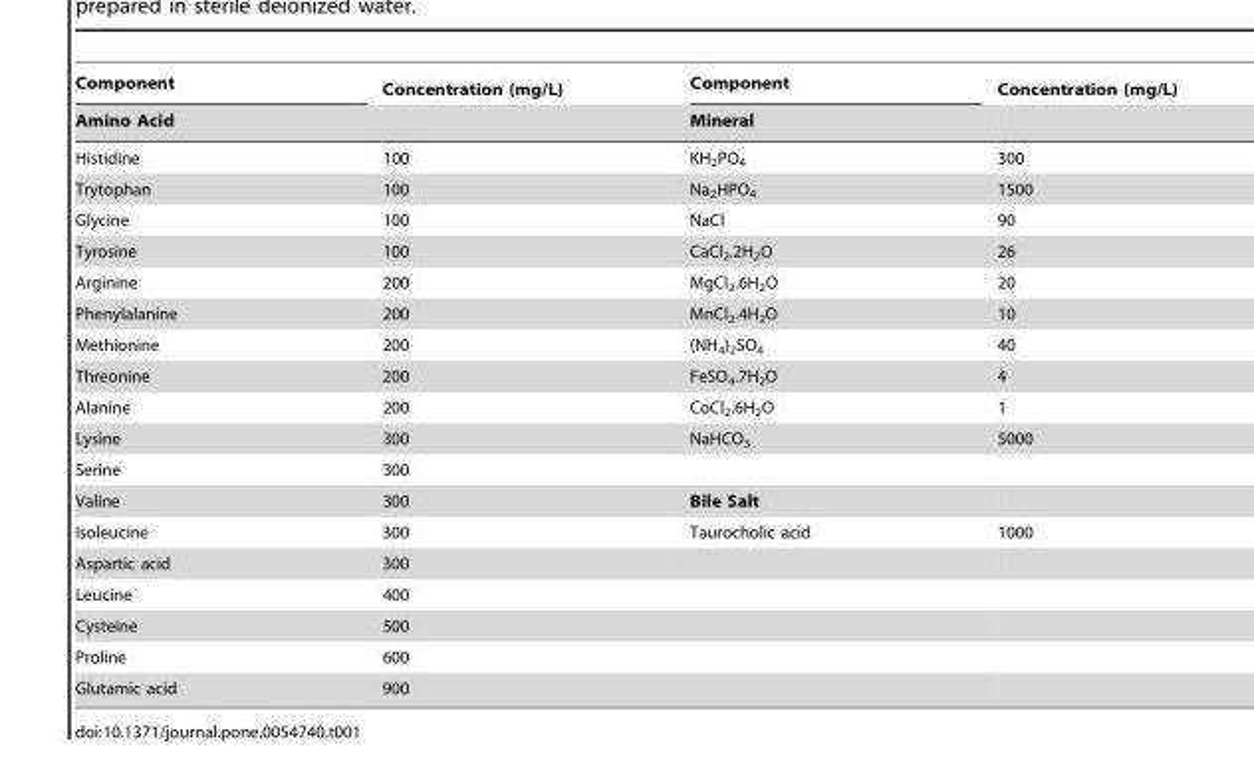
<table><thead><tr><td rowspan="2">Component Amino Acid</td><td rowspan="2">Concentration (mg/L)</td><td rowspan="2">Component Mineral</td><td rowspan="2">Concentration (mg/L)</td></tr><tr></tr></thead><tbody><tr><td>Histidine</td><td>100</td><td>KH<sub>2</sub>PO<sub>4</sub></td><td>300</td></tr><tr><td>Trytophan</td><td>100</td><td>Na<sub>2</sub>HPO<sub>4</sub></td><td>1500</td></tr><tr><td>Glycine</td><td>100</td><td>NaCl</td><td>90</td></tr><tr><td>Tyrosine</td><td>100</td><td>CaCl<sub>2</sub>.2H<sub>2</sub>O</td><td>26</td></tr><tr><td>Arginine</td><td>200</td><td>MgCl<sub>2</sub>.6H<sub>2</sub>O</td><td>20</td></tr><tr><td>Phenylalanine</td><td>200</td><td>MnCl<sub>2</sub>.4H<sub>2</sub>O</td><td>10</td></tr><tr><td>Methionine</td><td>200</td><td>(NH<sub>4</sub>)<sub>2</sub>SO<sub>4</sub></td><td>40</td></tr><tr><td>Threonine</td><td>200</td><td>FeSO<sub>4</sub>.7H<sub>2</sub>O</td><td>4</td></tr><tr><td>Alanine</td><td>200</td><td>CoCl<sub>2</sub>.6H<sub>2</sub>O</td><td>1</td></tr><tr><td>Lysine</td><td>300</td><td>NaHCO<sub>3</sub></td><td>5000</td></tr><tr><td>Serine</td><td>300</td><td></td><td></td></tr><tr><td>Valine</td><td>300</td><td>Bile Salt</td><td></td></tr><tr><td>Isoleucine</td><td>300</td><td>Taurocholic acid</td><td>1000</td></tr><tr><td>Aspartic acid</td><td>300</td><td></td><td></td></tr><tr><td>Leucine</td><td>400</td><td></td><td></td></tr><tr><td>Cysteine</td><td>500</td><td></td><td></td></tr><tr><td>Proline</td><td>600</td><td></td><td></td></tr><tr><td>Glutamic acid</td><td>900</td><td></td><td></td></tr></tbody></table>